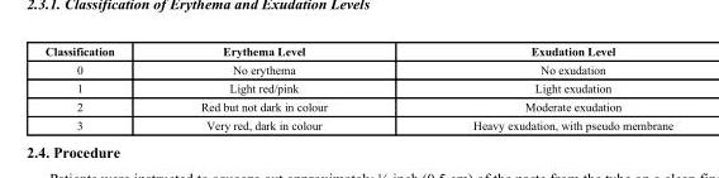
<table><thead><tr><td>Classification</td><td>Erythema Level</td><td>Exudation Level</td></tr></thead><tbody><tr><td>0</td><td>No erythema</td><td>No exudation</td></tr><tr><td>1</td><td>Light red/pink</td><td>Light exudation</td></tr><tr><td>2</td><td>Red but not dark in colour</td><td>Moderate exudation</td></tr><tr><td>3</td><td>Very red, dark in colour</td><td>Heavy exudation, with pseudo membrane</td></tr></tbody></table>